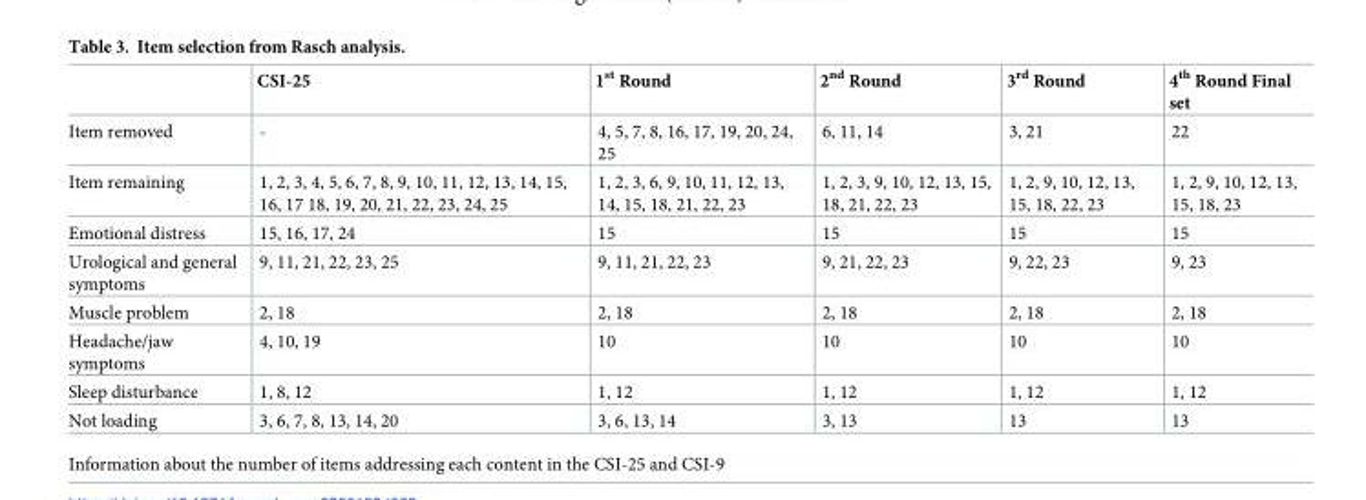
<table><thead><tr><td></td><td>CSI-25</td><td>1<sup>st</sup> Round</td><td>2<sup>nd</sup> Round</td><td>3<sup>rd</sup> Round</td><td>4<sup>th</sup> Round Final set</td></tr></thead><tbody><tr><td>Item removed</td><td>-</td><td>4, 5, 7, 8, 16, 17, 19, 20, 24, 25</td><td>6, 11, 14</td><td>3, 21</td><td>22</td></tr><tr><td>Item remaining</td><td>1, 2, 3, 4, 5, 6, 7, 8, 9, 10, 11, 12, 13, 14, 15, 16, 17 18, 19, 20, 21, 22, 23, 24, 25</td><td>1, 2, 3, 6, 9, 10, 11, 12, 13, 14, 15, 18, 21, 22, 23</td><td>1, 2, 3, 9, 10, 12, 13, 15, 18, 21, 22, 23</td><td>1, 2, 9, 10, 12, 13, 15, 18, 22, 23</td><td>1, 2, 9, 10, 12, 13, 15, 18, 23</td></tr><tr><td>Emotional distress</td><td>15, 16, 17, 24</td><td>15</td><td>15</td><td>15</td><td>15</td></tr><tr><td>Urological and general symptoms</td><td>9, 11, 21, 22, 23, 25</td><td>9, 11, 21, 22, 23</td><td>9, 21, 22, 23</td><td>9, 22, 23</td><td>9, 23</td></tr><tr><td>Muscle problem</td><td>2, 18</td><td>2, 18</td><td>2, 18</td><td>2, 18</td><td>2, 18</td></tr><tr><td>Headache/jaw symptoms</td><td>4, 10, 19</td><td>10</td><td>10</td><td>10</td><td>10</td></tr><tr><td>Sleep disturbance</td><td>1, 8, 12</td><td>1, 12</td><td>1, 12</td><td>1, 12</td><td>1, 12</td></tr><tr><td>Not loading</td><td>3, 6, 7, 8, 13, 14, 20</td><td>3, 6, 13, 14</td><td>3, 13</td><td>13</td><td>13</td></tr></tbody></table>